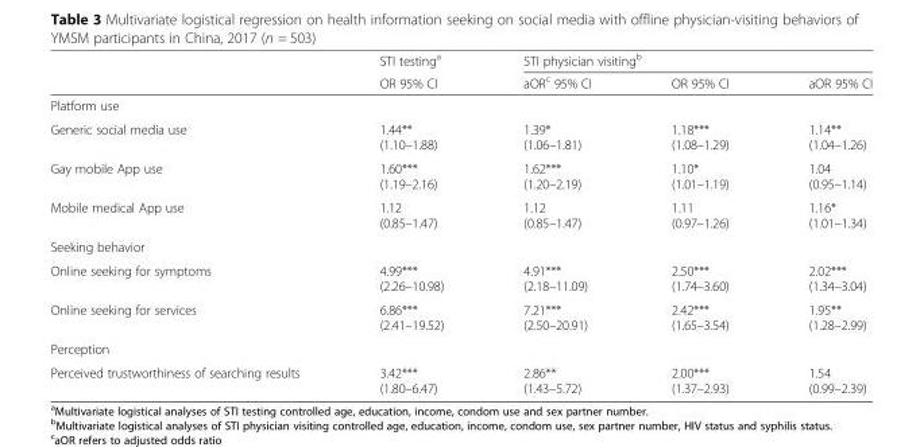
<table><thead><tr><td rowspan="2"></td><td rowspan="2">STI testing<sup>a</sup> OR 95% CI</td><td colspan="3">STI physician visiting<sup>b</sup></td></tr><tr><td>aOR<sup>c</sup> 95% CI</td><td>OR 95% CI</td><td>aOR 95% CI</td></tr></thead><tbody><tr><td colspan="5">Platform use</td></tr><tr><td>Generic social media use</td><td>1.44** (1.10–1.88)</td><td>1.39* (1.06–1.81)</td><td>1.18*** (1.08–1.29)</td><td>1.14** (1.04–1.26)</td></tr><tr><td>Gay mobile App use</td><td>1.60*** (1.19–2.16)</td><td>1.62*** (1.20–2.19)</td><td>1.10* (1.01–1.19)</td><td>1.04 (0.95–1.14)</td></tr><tr><td>Mobile medical App use</td><td>1.12 (0.85–1.47)</td><td>1.12 (0.85–1.47)</td><td>1.11 (0.97–1.26)</td><td>1.16* (1.01–1.34)</td></tr><tr><td colspan="5">Seeking behavior</td></tr><tr><td>Online seeking for symptoms</td><td>4.99*** (2.26–10.98)</td><td>4.91*** (2.18–11.09)</td><td>2.50*** (1.74–3.60)</td><td>2.02*** (1.34–3.04)</td></tr><tr><td>Online seeking for services</td><td>6.86*** (2.41–19.52)</td><td>7.21*** (2.50–20.91)</td><td>2.42*** (1.65–3.54)</td><td>1.95** (1.28–2.99)</td></tr><tr><td colspan="5">Perception</td></tr><tr><td>Perceived trustworthiness of searching results</td><td>3.42*** (1.80–6.47)</td><td>2.86** (1.43–5.72)</td><td>2.00*** (1.37–2.93)</td><td>1.54 (0.99–2.39)</td></tr></tbody></table>